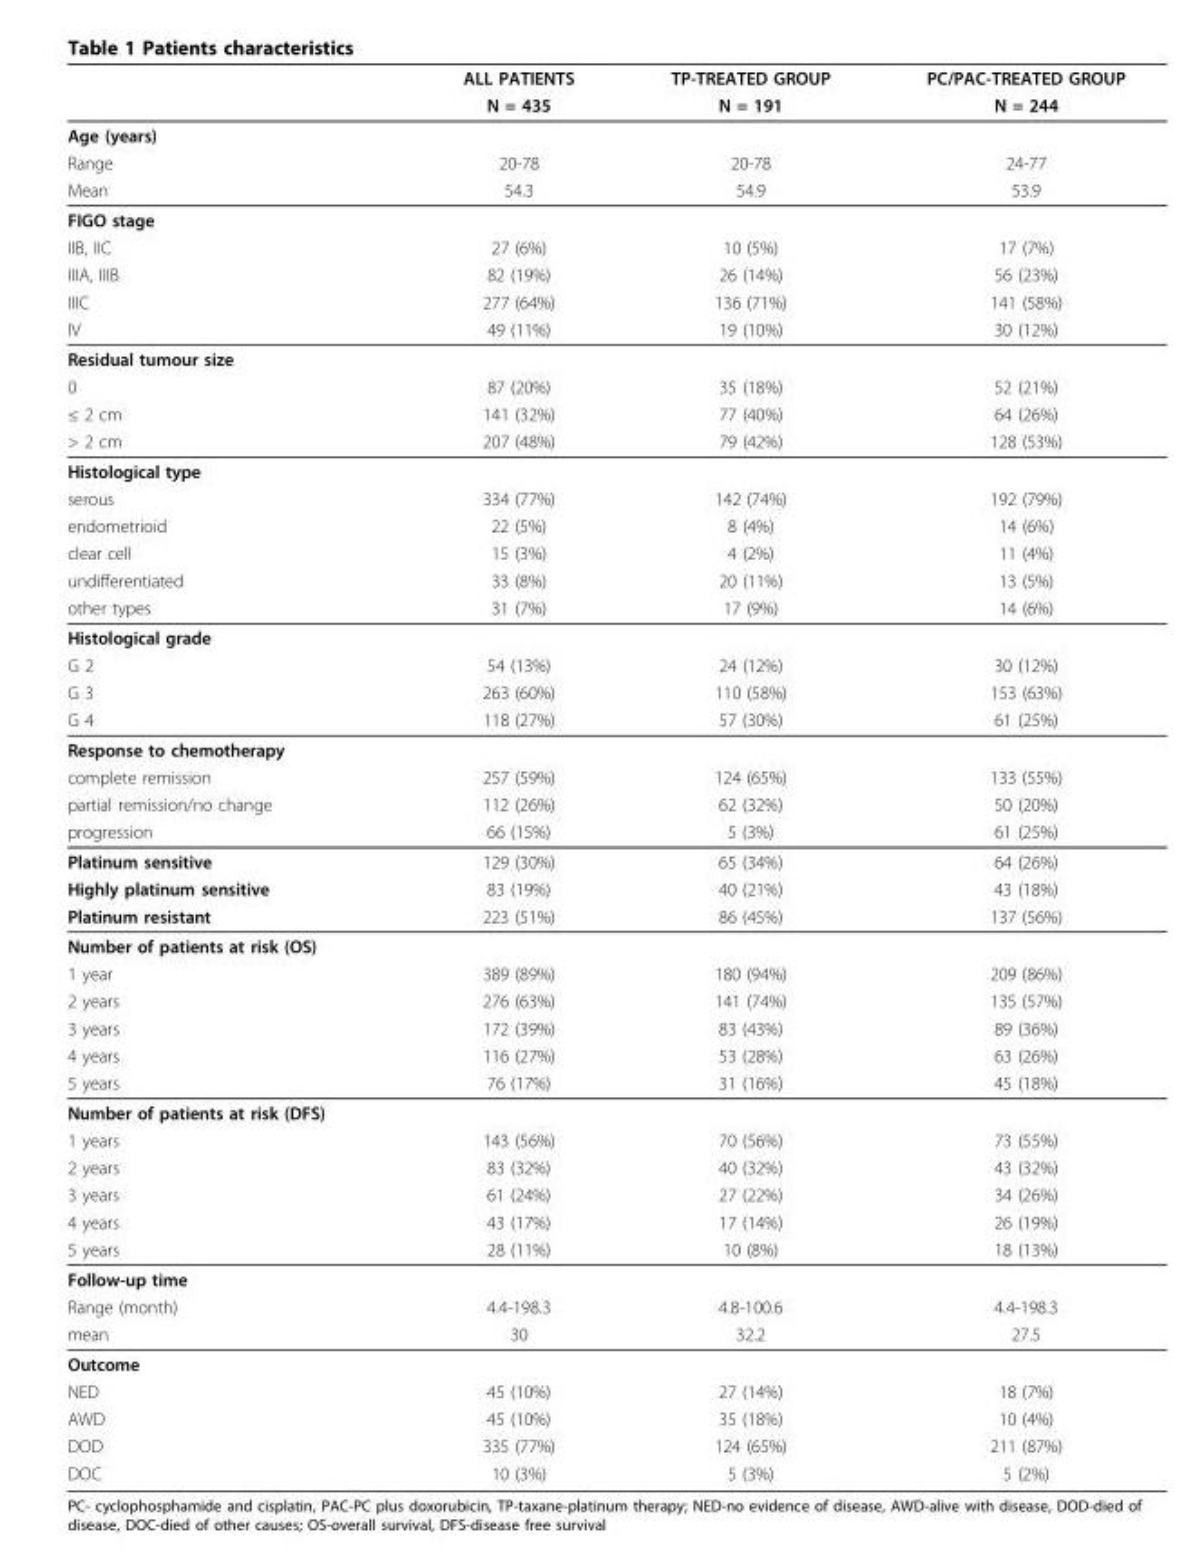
<table><thead><tr><td rowspan="2"></td><td rowspan="2">ALL PATIENTS N = 435</td><td rowspan="2">TP-TREATED GROUP N = 191</td><td rowspan="2">PC/PAC-TREATED GROUP N = 244</td></tr><tr></tr></thead><tbody><tr><td colspan="4">Age (years)</td></tr><tr><td>Range</td><td>20-78</td><td>20-78</td><td>24-77</td></tr><tr><td>Mean</td><td>54.3</td><td>54.9</td><td>53.9</td></tr><tr><td colspan="4">FIGO stage</td></tr><tr><td>IIB, IIC</td><td>27 (6%)</td><td>10 (5%)</td><td>17 (7%)</td></tr><tr><td>IIIA, IIIB</td><td>82 (19%)</td><td>26 (14%)</td><td>56 (23%)</td></tr><tr><td>IIIC</td><td>277 (64%)</td><td>136 (71%)</td><td>141 (58%)</td></tr><tr><td>IV</td><td>49 (11%)</td><td>19 (10%)</td><td>30 (12%)</td></tr><tr><td colspan="4">Residual tumour size</td></tr><tr><td>0</td><td>87 (20%)</td><td>35 (18%)</td><td>52 (21%)</td></tr><tr><td>≤ 2 cm</td><td>141 (32%)</td><td>77 (40%)</td><td>64 (26%)</td></tr><tr><td>&gt; 2 cm</td><td>207 (48%)</td><td>79 (42%)</td><td>128 (53%)</td></tr><tr><td colspan="4">Histological type</td></tr><tr><td>serous</td><td>334 (77%)</td><td>142 (74%)</td><td>192 (79%)</td></tr><tr><td>endometrioid</td><td>22 (5%)</td><td>8 (4%)</td><td>14 (6%)</td></tr><tr><td>clear cell</td><td>15 (3%)</td><td>4 (2%)</td><td>11 (4%)</td></tr><tr><td>undifferentiated</td><td>33 (8%)</td><td>20 (11%)</td><td>13 (5%)</td></tr><tr><td>other types</td><td>31 (7%)</td><td>17 (9%)</td><td>14 (6%)</td></tr><tr><td colspan="4">Histological grade</td></tr><tr><td>G 2</td><td>54 (13%)</td><td>24 (12%)</td><td>30 (12%)</td></tr><tr><td>G 3</td><td>263 (60%)</td><td>110 (58%)</td><td>153 (63%)</td></tr><tr><td>G 4</td><td>118 (27%)</td><td>57 (30%)</td><td>61 (25%)</td></tr><tr><td colspan="4">Response to chemotherapy</td></tr><tr><td>complete remission</td><td>257 (59%)</td><td>124 (65%)</td><td>133 (55%)</td></tr><tr><td>partial remission/no change</td><td>112 (26%)</td><td>62 (32%)</td><td>50 (20%)</td></tr><tr><td>progression</td><td>66 (15%)</td><td>5 (3%)</td><td>61 (25%)</td></tr><tr><td>Platinum sensitive</td><td>129 (30%)</td><td>65 (34%)</td><td>64 (26%)</td></tr><tr><td>Highly platinum sensitive</td><td>83 (19%)</td><td>40 (21%)</td><td>43 (18%)</td></tr><tr><td>Platinum resistant</td><td>223 (51%)</td><td>86 (45%)</td><td>137 (56%)</td></tr><tr><td colspan="4">Number of patients at risk (OS)</td></tr><tr><td>1 year</td><td>389 (89%)</td><td>180 (94%)</td><td>209 (86%)</td></tr><tr><td>2 years</td><td>276 (63%)</td><td>141 (74%)</td><td>135 (57%)</td></tr><tr><td>3 years</td><td>172 (39%)</td><td>83 (43%)</td><td>89 (36%)</td></tr><tr><td>4 years</td><td>116 (27%)</td><td>53 (28%)</td><td>63 (26%)</td></tr><tr><td>5 years</td><td>76 (17%)</td><td>31 (16%)</td><td>45 (18%)</td></tr><tr><td colspan="4">Number of patients at risk (DFS)</td></tr><tr><td>1 years</td><td>143 (56%)</td><td>70 (56%)</td><td>73 (55%)</td></tr><tr><td>2 years</td><td>83 (32%)</td><td>40 (32%)</td><td>43 (32%)</td></tr><tr><td>3 years</td><td>61 (24%)</td><td>27 (22%)</td><td>34 (26%)</td></tr><tr><td>4 years</td><td>43 (17%)</td><td>17 (14%)</td><td>26 (19%)</td></tr><tr><td>5 years</td><td>28 (11%)</td><td>10 (8%)</td><td>18 (13%)</td></tr><tr><td colspan="4">Follow-up time</td></tr><tr><td>Range (month)</td><td>4.4-198.3</td><td>4.8-100.6</td><td>4.4-198.3</td></tr><tr><td>mean</td><td>30</td><td>32.2</td><td>27.5</td></tr><tr><td colspan="4">Outcome</td></tr><tr><td>NED</td><td>45 (10%)</td><td>27 (14%)</td><td>18 (7%)</td></tr><tr><td>AWD</td><td>45 (10%)</td><td>35 (18%)</td><td>10 (4%)</td></tr><tr><td>DOD</td><td>335 (77%)</td><td>124 (65%)</td><td>211 (87%)</td></tr><tr><td>DOC</td><td>10 (3%)</td><td>5 (3%)</td><td>5 (2%)</td></tr></tbody></table>